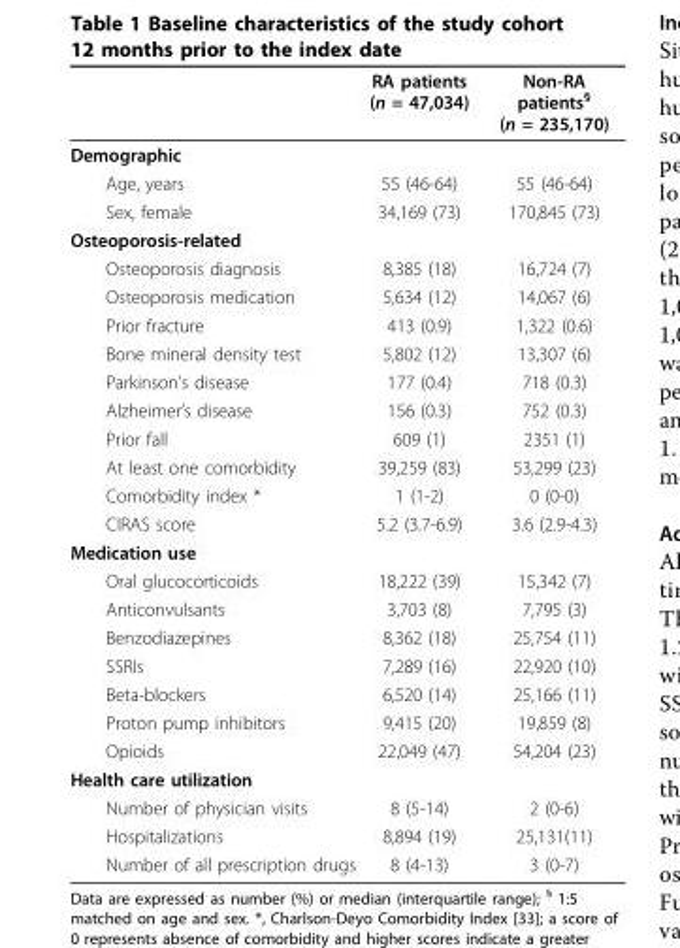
<table><thead><tr><td></td><td>RA patients (n = 47,034)</td><td>Non-RA patients<sup>§</sup> (n = 235,170)</td></tr></thead><tbody><tr><td colspan="3">Demographic</td></tr><tr><td>Age, years</td><td>55 (46-64)</td><td>55 (46-64)</td></tr><tr><td>Sex, female</td><td>34,169 (73)</td><td>170,845 (73)</td></tr><tr><td colspan="3">Osteoporosis-related</td></tr><tr><td>Osteoporosis diagnosis</td><td>8,385 (18)</td><td>16,724 (7)</td></tr><tr><td>Osteoporosis medication</td><td>5,634 (12)</td><td>14,067 (6)</td></tr><tr><td>Prior fracture</td><td>413 (0.9)</td><td>1,322 (0.6)</td></tr><tr><td>Bone mineral density test</td><td>5,802 (12)</td><td>13,307 (6)</td></tr><tr><td>Parkinson’s disease</td><td>177 (0.4)</td><td>718 (0.3)</td></tr><tr><td>Alzheimer’s disease</td><td>156 (0.3)</td><td>752 (0.3)</td></tr><tr><td>Prior fall</td><td>609 (1)</td><td>2351 (1)</td></tr><tr><td>At least one comorbidity</td><td>39,259 (83)</td><td>53,299 (23)</td></tr><tr><td>Comorbidity index *</td><td>1 (1-2)</td><td>0 (0-0)</td></tr><tr><td>CIRAS score</td><td>5.2 (3.7-6.9)</td><td>3.6 (2.9-4.3)</td></tr><tr><td colspan="3">Medication use</td></tr><tr><td>Oral glucocorticoids</td><td>18,222 (39)</td><td>15,342 (7)</td></tr><tr><td>Anticonvulsants</td><td>3,703 (8)</td><td>7,795 (3)</td></tr><tr><td>Benzodiazepines</td><td>8,362 (18)</td><td>25,754 (11)</td></tr><tr><td>SSRIs</td><td>7,289 (16)</td><td>22,920 (10)</td></tr><tr><td>Beta-blockers</td><td>6,520 (14)</td><td>25,166 (11)</td></tr><tr><td>Proton pump inhibitors</td><td>9,415 (20)</td><td>19,859 (8)</td></tr><tr><td>Opioids</td><td>22,049 (47)</td><td>54,204 (23)</td></tr><tr><td colspan="3">Health care utilization</td></tr><tr><td>Number of physician visits</td><td>8 (5-14)</td><td>2 (0-6)</td></tr><tr><td>Hospitalizations</td><td>8,894 (19)</td><td>25,131(11)</td></tr><tr><td>Number of all prescription drugs</td><td>8 (4-13)</td><td>3 (0-7)</td></tr></tbody></table>